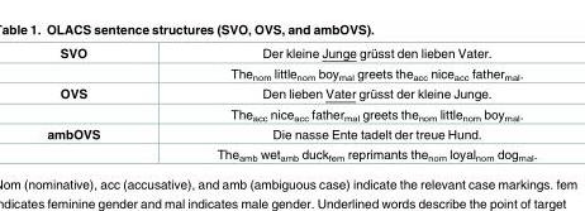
<table><tbody><tr><td rowspan="2">SVO</td><td>Der kleine Junge gru¨sst den lieben Vater.</td></tr><tr><td>The<sub>nom</sub> little<sub>nom</sub> boy<sub>mal</sub> greets the<sub>acc</sub> nice<sub>acc</sub> father<sub>mal</sub>.</td></tr><tr><td rowspan="2">OVS</td><td>Den lieben Vater gru¨sst der kleine Junge.</td></tr><tr><td>The<sub>acc</sub> nice<sub>acc</sub> father<sub>mal</sub> greets the<sub>nom</sub> little<sub>nom</sub> boy<sub>mal</sub>.</td></tr><tr><td rowspan="2">ambOVS</td><td>Die nasse Ente tadelt der treue Hund.</td></tr><tr><td>The<sub>amb</sub> wet<sub>amb</sub> duck<sub>fem</sub> reprimants the<sub>nom</sub> loyal<sub>nom</sub> dog<sub>mal</sub>.</td></tr></tbody></table>